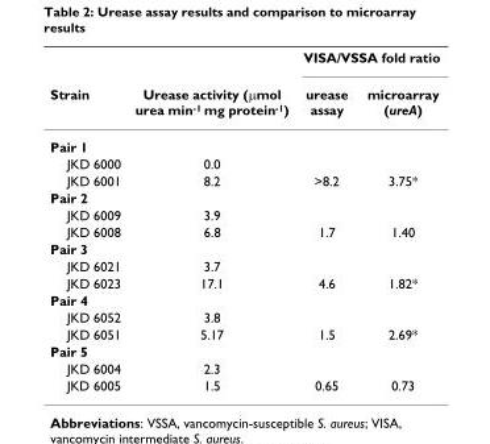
<table><thead><tr><td rowspan="2">Strain</td><td rowspan="2">Urease activity (μmol urea min<sup>-1</sup> mg protein<sup>-1</sup>)</td><td colspan="2">VISA/VSSA fold ratio</td></tr><tr><td>urease assay</td><td>microarray (ureA)</td></tr></thead><tbody><tr><td colspan="4">Pair 1</td></tr><tr><td>JKD 6000</td><td>0.0</td><td></td><td></td></tr><tr><td>JKD 6001</td><td>8.2</td><td>&gt;8.2</td><td>3.75*</td></tr><tr><td colspan="4">Pair 2</td></tr><tr><td>JKD 6009</td><td>3.9</td><td></td><td></td></tr><tr><td>JKD 6008</td><td>6.8</td><td>1.7</td><td>1.40</td></tr><tr><td colspan="4">Pair 3</td></tr><tr><td>JKD 6021</td><td>3.7</td><td></td><td></td></tr><tr><td>JKD 6023</td><td>17.1</td><td>4.6</td><td>1.82*</td></tr><tr><td colspan="4">Pair 4</td></tr><tr><td>JKD 6052</td><td>3.8</td><td></td><td></td></tr><tr><td>JKD 6051</td><td>5.17</td><td>1.5</td><td>2.69*</td></tr><tr><td colspan="4">Pair 5</td></tr><tr><td>JKD 6004</td><td>2.3</td><td></td><td></td></tr><tr><td>JKD 6005</td><td>1.5</td><td>0.65</td><td>0.73</td></tr></tbody></table>